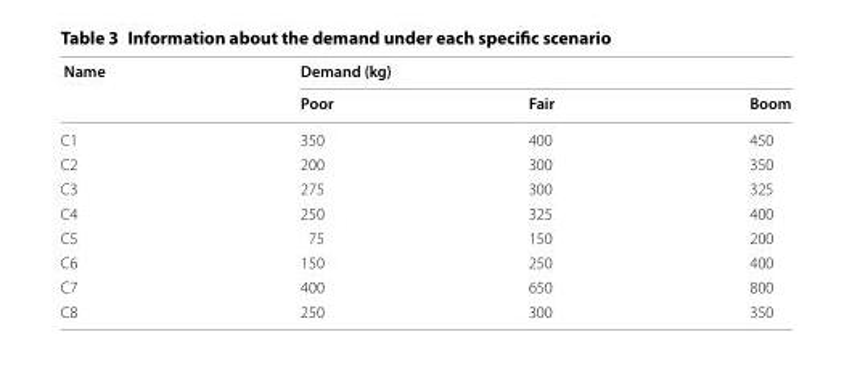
<table><thead><tr><td rowspan="2">Name</td><td colspan="3">Demand (kg)</td></tr><tr><td>Poor</td><td>Fair</td><td>Boom</td></tr></thead><tbody><tr><td>C1</td><td>350</td><td>400</td><td>450</td></tr><tr><td>C2</td><td>200</td><td>300</td><td>350</td></tr><tr><td>C3</td><td>275</td><td>300</td><td>325</td></tr><tr><td>C4</td><td>250</td><td>325</td><td>400</td></tr><tr><td>C5</td><td>75</td><td>150</td><td>200</td></tr><tr><td>C6</td><td>150</td><td>250</td><td>400</td></tr><tr><td>C7</td><td>400</td><td>650</td><td>800</td></tr><tr><td>C8</td><td>250</td><td>300</td><td>350</td></tr></tbody></table>